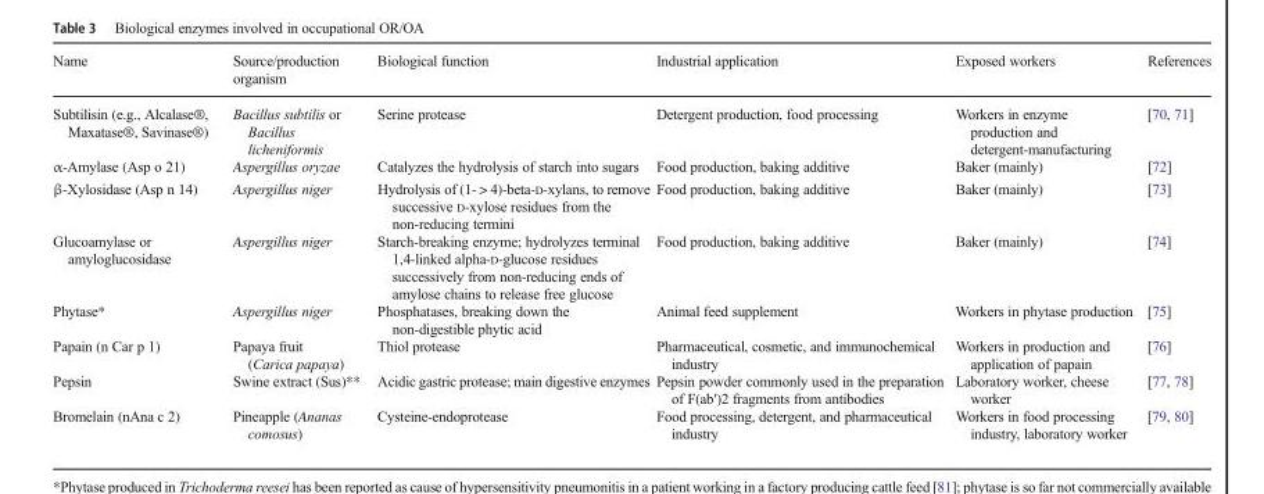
<table><thead><tr><td>Name</td><td>Source/production organism</td><td>Biological function</td><td>Industrial application</td><td>Exposed workers</td><td>References</td></tr></thead><tbody><tr><td>Subtilisin (e.g., Alcalase®, Maxatase®, Savinase®)</td><td>Bacillus subtilis or Bacillus licheniformis</td><td>Serine protease</td><td>Detergent production, food processing</td><td>Workers in enzyme production and detergent-manufacturing</td><td>[70, 71]</td></tr><tr><td>α-Amylase (Asp o 21)</td><td>Aspergillus oryzae</td><td>Catalyzes the hydrolysis of starch into sugars</td><td>Food production, baking additive</td><td>Baker (mainly)</td><td>[72]</td></tr><tr><td>β-Xylosidase (Asp n 14)</td><td>Aspergillus niger</td><td>Hydrolysis of (1- &gt; 4)-beta-D-xylans, to remove successive D-xylose residues from the non-reducing termini</td><td>Food production, baking additive</td><td>Baker (mainly)</td><td>[73]</td></tr><tr><td>Glucoamylase or amyloglucosidase</td><td>Aspergillus niger</td><td>Starch-breaking enzyme; hydrolyzes terminal 1,4-linked alpha-D-glucose residues successively from non-reducing ends of amylose chains to release free glucose</td><td>Food production, baking additive</td><td>Baker (mainly)</td><td>[74]</td></tr><tr><td>Phytase*</td><td>Aspergillus niger</td><td>Phosphatases, breaking down the non-digestible phytic acid</td><td>Animal feed supplement</td><td>Workers in phytase production</td><td>[75]</td></tr><tr><td>Papain (n Car p 1)</td><td>Papaya fruit (Carica papaya)</td><td>Thiol protease</td><td>Pharmaceutical, cosmetic, and immunochemical industry</td><td>Workers in production and application of papain</td><td>[76]</td></tr><tr><td>Pepsin</td><td>Swine extract (Sus)**</td><td>Acidic gastric protease; main digestive enzymes</td><td>Pepsin powder commonly used in the preparation of F(ab′)2 fragments from antibodies</td><td>Laboratory worker, cheese worker</td><td>[77, 78]</td></tr><tr><td>Bromelain (nAna c 2)</td><td>Pineapple (Ananas comosus)</td><td>Cysteine-endoprotease</td><td>Food processing, detergent, and pharmaceutical industry</td><td>Workers in food processing industry, laboratory worker</td><td>[79, 80]</td></tr></tbody></table>